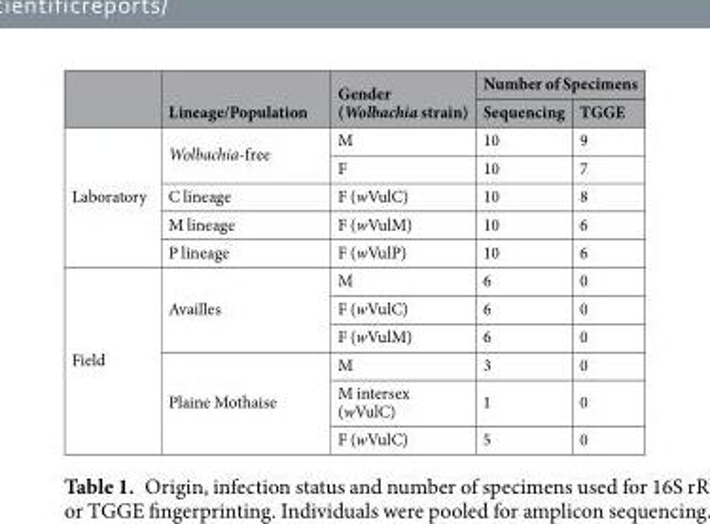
<table><thead><tr><td rowspan="2"></td><td rowspan="2">Lineage/Population</td><td rowspan="2">Gender (Wolbachia strain)</td><td colspan="2">Number of Specimens</td></tr><tr><td>Sequencing</td><td>TGGE</td></tr></thead><tbody><tr><td rowspan="5">Laboratory</td><td rowspan="2">Wolbachia-free</td><td>M</td><td>10</td><td>9</td></tr><tr><td>F</td><td>10</td><td>7</td></tr><tr><td>C lineage</td><td>F (wVulC)</td><td>10</td><td>8</td></tr><tr><td>M lineage</td><td>F (wVulM)</td><td>10</td><td>6</td></tr><tr><td>P lineage</td><td>F (wVulP)</td><td>10</td><td>6</td></tr><tr><td rowspan="6">Field</td><td rowspan="3">Availles</td><td>M</td><td>6</td><td>0</td></tr><tr><td>F (wVulC)</td><td>6</td><td>0</td></tr><tr><td>F (wVulM)</td><td>6</td><td>0</td></tr><tr><td rowspan="3">Plaine Mothaise</td><td>M</td><td>3</td><td>0</td></tr><tr><td>M intersex (wVulC)</td><td>1</td><td>0</td></tr><tr><td>F (wVulC)</td><td>5</td><td>0</td></tr></tbody></table>